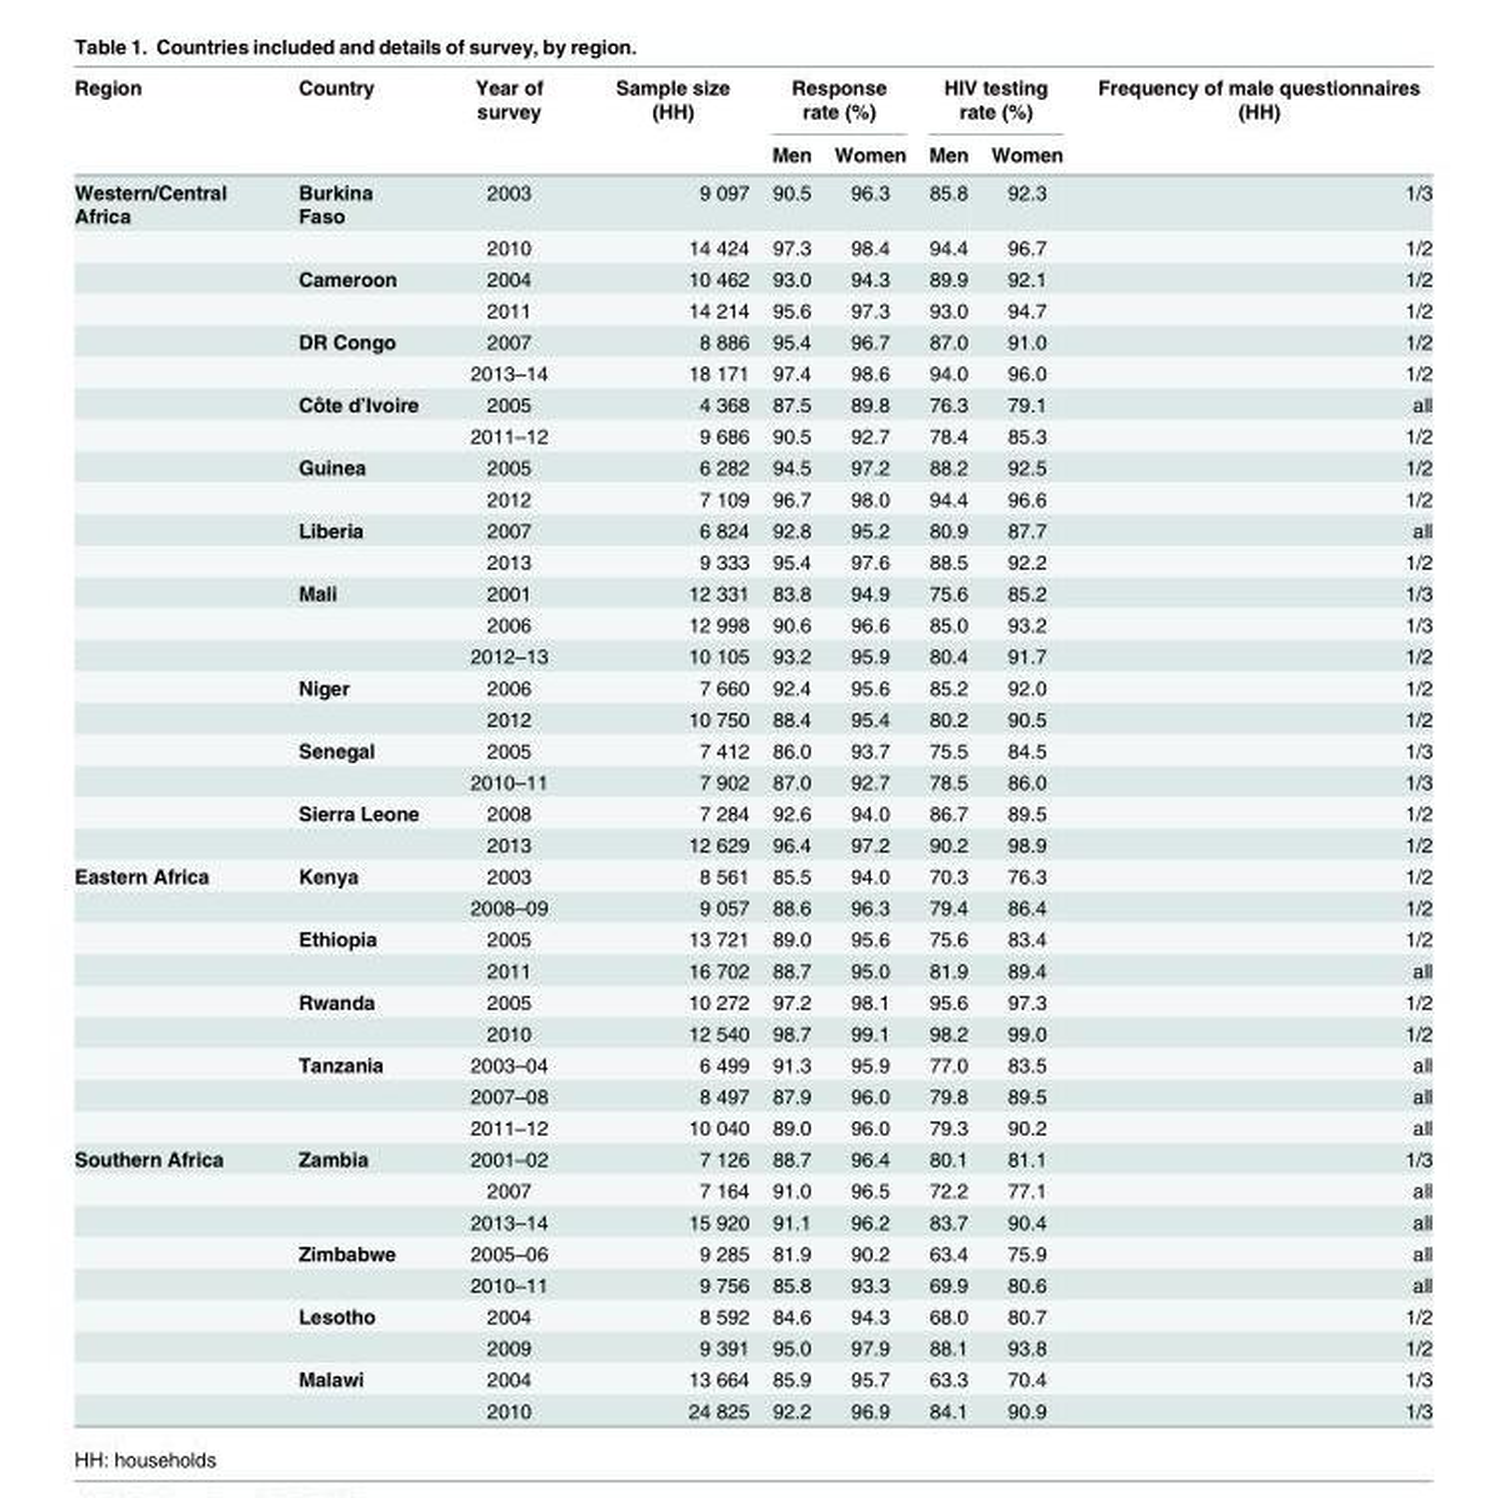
<table><thead><tr><td rowspan="2">Region</td><td rowspan="2">Country</td><td rowspan="2">Year of survey</td><td rowspan="2">Sample size (HH)</td><td colspan="2">Response rate (%)</td><td colspan="2">HIV testing rate (%)</td><td rowspan="2">Frequency of male questionnaires (HH)</td></tr><tr><td>Men</td><td>Women</td><td>Men</td><td>Women</td></tr></thead><tbody><tr><td rowspan="21">Western/Central Africa</td><td>Burkina Faso</td><td>2003</td><td>9 097</td><td>90.5</td><td>96.3</td><td>85.8</td><td>92.3</td><td>1/3</td></tr><tr><td></td><td>2010</td><td>14 424</td><td>97.3</td><td>98.4</td><td>94.4</td><td>96.7</td><td>1/2</td></tr><tr><td>Cameroon</td><td>2004</td><td>10 462</td><td>93.0</td><td>94.3</td><td>89.9</td><td>92.1</td><td>1/2</td></tr><tr><td></td><td>2011</td><td>14 214</td><td>95.6</td><td>97.3</td><td>93.0</td><td>94.7</td><td>1/2</td></tr><tr><td>DR Congo</td><td>2007</td><td>8 886</td><td>95.4</td><td>96.7</td><td>87.0</td><td>91.0</td><td>1/2</td></tr><tr><td></td><td>2013–14</td><td>18 171</td><td>97.4</td><td>98.6</td><td>94.0</td><td>96.0</td><td>1/2</td></tr><tr><td>Côte d’Ivoire</td><td>2005</td><td>4 368</td><td>87.5</td><td>89.8</td><td>76.3</td><td>79.1</td><td>all</td></tr><tr><td></td><td>2011–12</td><td>9 686</td><td>90.5</td><td>92.7</td><td>78.4</td><td>85.3</td><td>1/2</td></tr><tr><td>Guinea</td><td>2005</td><td>6 282</td><td>94.5</td><td>97.2</td><td>88.2</td><td>92.5</td><td>1/2</td></tr><tr><td></td><td>2012</td><td>7 109</td><td>96.7</td><td>98.0</td><td>94.4</td><td>96.6</td><td>1/2</td></tr><tr><td>Liberia</td><td>2007</td><td>6 824</td><td>92.8</td><td>95.2</td><td>80.9</td><td>87.7</td><td>all</td></tr><tr><td></td><td>2013</td><td>9 333</td><td>95.4</td><td>97.6</td><td>88.5</td><td>92.2</td><td>1/2</td></tr><tr><td>Mali</td><td>2001</td><td>12 331</td><td>83.8</td><td>94.9</td><td>75.6</td><td>85.2</td><td>1/3</td></tr><tr><td></td><td>2006</td><td>12 998</td><td>90.6</td><td>96.6</td><td>85.0</td><td>93.2</td><td>1/3</td></tr><tr><td></td><td>2012–13</td><td>10 105</td><td>93.2</td><td>95.9</td><td>80.4</td><td>91.7</td><td>1/2</td></tr><tr><td>Niger</td><td>2006</td><td>7 660</td><td>92.4</td><td>95.6</td><td>85.2</td><td>92.0</td><td>1/2</td></tr><tr><td></td><td>2012</td><td>10 750</td><td>88.4</td><td>95.4</td><td>80.2</td><td>90.5</td><td>1/2</td></tr><tr><td>Senegal</td><td>2005</td><td>7 412</td><td>86.0</td><td>93.7</td><td>75.5</td><td>84.5</td><td>1/3</td></tr><tr><td></td><td>2010–11</td><td>7 902</td><td>87.0</td><td>92.7</td><td>78.5</td><td>86.0</td><td>1/3</td></tr><tr><td>Sierra Leone</td><td>2008</td><td>7 284</td><td>92.6</td><td>94.0</td><td>86.7</td><td>89.5</td><td>1/2</td></tr><tr><td></td><td>2013</td><td>12 629</td><td>96.4</td><td>97.2</td><td>90.2</td><td>98.9</td><td>1/2</td></tr><tr><td rowspan="9">Eastern Africa</td><td>Kenya</td><td>2003</td><td>8 561</td><td>85.5</td><td>94.0</td><td>70.3</td><td>76.3</td><td>1/2</td></tr><tr><td></td><td>2008–09</td><td>9 057</td><td>88.6</td><td>96.3</td><td>79.4</td><td>86.4</td><td>1/2</td></tr><tr><td>Ethiopia</td><td>2005</td><td>13 721</td><td>89.0</td><td>95.6</td><td>75.6</td><td>83.4</td><td>1/2</td></tr><tr><td></td><td>2011</td><td>16 702</td><td>88.7</td><td>95.0</td><td>81.9</td><td>89.4</td><td>all</td></tr><tr><td>Rwanda</td><td>2005</td><td>10 272</td><td>97.2</td><td>98.1</td><td>95.6</td><td>97.3</td><td>1/2</td></tr><tr><td></td><td>2010</td><td>12 540</td><td>98.7</td><td>99.1</td><td>98.2</td><td>99.0</td><td>1/2</td></tr><tr><td>Tanzania</td><td>2003–04</td><td>6 499</td><td>91.3</td><td>95.9</td><td>77.0</td><td>83.5</td><td>all</td></tr><tr><td></td><td>2007–08</td><td>8 497</td><td>87.9</td><td>96.0</td><td>79.8</td><td>89.5</td><td>all</td></tr><tr><td></td><td>2011–12</td><td>10 040</td><td>89.0</td><td>96.0</td><td>79.3</td><td>90.2</td><td>all</td></tr><tr><td rowspan="9">Southern Africa</td><td>Zambia</td><td>2001–02</td><td>7 126</td><td>88.7</td><td>96.4</td><td>80.1</td><td>81.1</td><td>1/3</td></tr><tr><td></td><td>2007</td><td>7 164</td><td>91.0</td><td>96.5</td><td>72.2</td><td>77.1</td><td>all</td></tr><tr><td></td><td>2013–14</td><td>15 920</td><td>91.1</td><td>96.2</td><td>83.7</td><td>90.4</td><td>all</td></tr><tr><td>Zimbabwe</td><td>2005–06</td><td>9 285</td><td>81.9</td><td>90.2</td><td>63.4</td><td>75.9</td><td>all</td></tr><tr><td></td><td>2010–11</td><td>9 756</td><td>85.8</td><td>93.3</td><td>69.9</td><td>80.6</td><td>all</td></tr><tr><td>Lesotho</td><td>2004</td><td>8 592</td><td>84.6</td><td>94.3</td><td>68.0</td><td>80.7</td><td>1/2</td></tr><tr><td></td><td>2009</td><td>9 391</td><td>95.0</td><td>97.9</td><td>88.1</td><td>93.8</td><td>1/2</td></tr><tr><td>Malawi</td><td>2004</td><td>13 664</td><td>85.9</td><td>95.7</td><td>63.3</td><td>70.4</td><td>1/3</td></tr><tr><td></td><td>2010</td><td>24 825</td><td>92.2</td><td>96.9</td><td>84.1</td><td>90.9</td><td>1/3</td></tr></tbody></table>